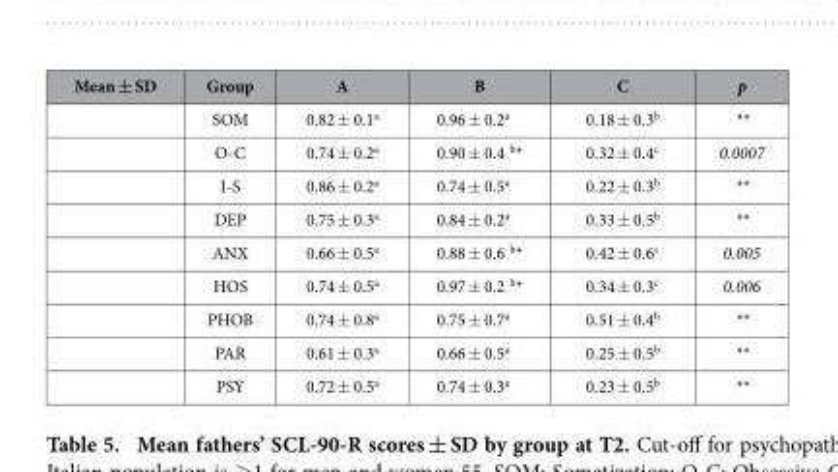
<table><thead><tr><td>Mean ± SD</td><td>Group</td><td>A</td><td>B</td><td>C</td><td>p</td></tr></thead><tbody><tr><td></td><td>SOM</td><td>0.82 ± 0.1<sup>a</sup></td><td>0.96 ± 0.2<sup>a</sup></td><td>0.18 ± 0.3<sup>b</sup></td><td>**</td></tr><tr><td></td><td>O-C</td><td>0.74 ± 0.2<sup>a</sup></td><td>0.90 ± 0.4 <sup>b</sup>*</td><td>0.32 ± 0.4<sup>c</sup></td><td>0.0007</td></tr><tr><td></td><td>I-S</td><td>0.86 ± 0.2<sup>a</sup></td><td>0.74 ± 0.5<sup>a</sup></td><td>0.22 ± 0.3<sup>b</sup></td><td>**</td></tr><tr><td></td><td>DEP</td><td>0.75 ± 0.3<sup>a</sup></td><td>0.84 ± 0.2<sup>a</sup></td><td>0.33 ± 0.5<sup>b</sup></td><td>**</td></tr><tr><td></td><td>ANX</td><td>0.66 ± 0.5<sup>a</sup></td><td>0.88 ± 0.6 <sup>b</sup>*</td><td>0.42 ± 0.6<sup>c</sup></td><td>0.005</td></tr><tr><td></td><td>HOS</td><td>0.74 ± 0.5<sup>a</sup></td><td>0.97 ± 0.2 <sup>b</sup>*</td><td>0.34 ± 0.3<sup>c</sup></td><td>0.006</td></tr><tr><td></td><td>PHOB</td><td>0.74 ± 0.8<sup>a</sup></td><td>0.75 ± 0.7<sup>a</sup></td><td>0.51 ± 0.4<sup>b</sup></td><td>**</td></tr><tr><td></td><td>PAR</td><td>0.61 ± 0.3<sup>a</sup></td><td>0.66 ± 0.5<sup>a</sup></td><td>0.25 ± 0.5<sup>b</sup></td><td>**</td></tr><tr><td></td><td>PSY</td><td>0.72 ± 0.5<sup>a</sup></td><td>0.74 ± 0.3<sup>a</sup></td><td>0.23 ± 0.5<sup>b</sup></td><td>**</td></tr></tbody></table>